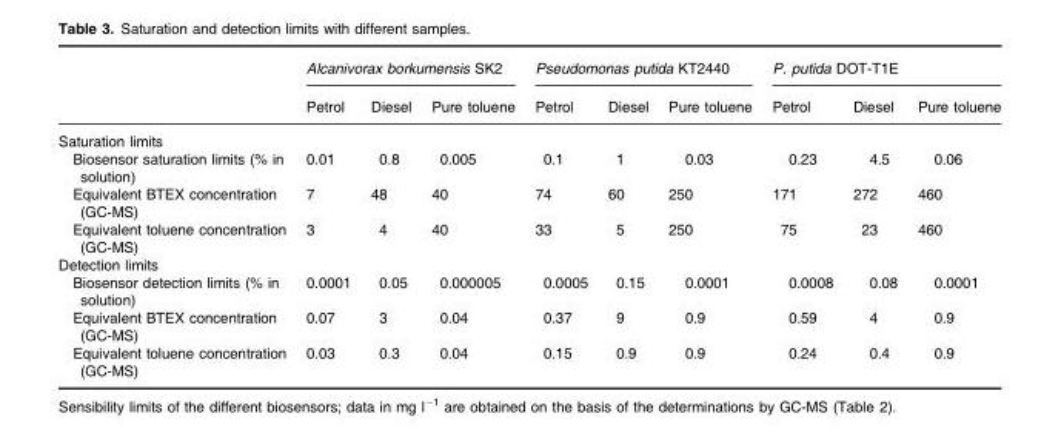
<table><thead><tr><td rowspan="2"></td><td colspan="3">Alcanivorax borkumensis SK2</td><td colspan="3">Pseudomonas putida KT2440</td><td colspan="3">P. putida DOT-T1E</td></tr><tr><td>Petrol</td><td>Diesel</td><td>Pure toluene</td><td>Petrol</td><td>Diesel</td><td>Pure toluene</td><td>Petrol</td><td>Diesel</td><td>Pure toluene</td></tr></thead><tbody><tr><td colspan="10">Saturation limits</td></tr><tr><td>Biosensor saturation limits (% in solution)</td><td>0.01</td><td>0.8</td><td>0.005</td><td>0.1</td><td>1</td><td>0.03</td><td>0.23</td><td>4.5</td><td>0.06</td></tr><tr><td>Equivalent BTEX concentration (GC-MS)</td><td>7</td><td>48</td><td>40</td><td>74</td><td>60</td><td>250</td><td>171</td><td>272</td><td>460</td></tr><tr><td>Equivalent toluene concentration (GC-MS)</td><td>3</td><td>4</td><td>40</td><td>33</td><td>5</td><td>250</td><td>75</td><td>23</td><td>460</td></tr><tr><td colspan="10">Detection limits</td></tr><tr><td>Biosensor detection limits (% in solution)</td><td>0.0001</td><td>0.05</td><td>0.000005</td><td>0.0005</td><td>0.15</td><td>0.0001</td><td>0.0008</td><td>0.08</td><td>0.0001</td></tr><tr><td>Equivalent BTEX concentration (GC-MS)</td><td>0.07</td><td>3</td><td>0.04</td><td>0.37</td><td>9</td><td>0.9</td><td>0.59</td><td>4</td><td>0.9</td></tr><tr><td>Equivalent toluene concentration (GC-MS)</td><td>0.03</td><td>0.3</td><td>0.04</td><td>0.15</td><td>0.9</td><td>0.9</td><td>0.24</td><td>0.4</td><td>0.9</td></tr></tbody></table>